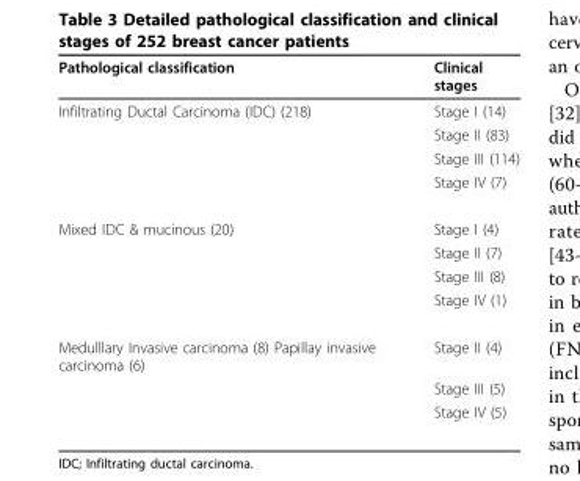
<table><thead><tr><td>Pathological classification</td><td>Clinical stages</td></tr></thead><tbody><tr><td rowspan="4">Infiltrating Ductal Carcinoma (IDC) (218)</td><td>Stage I (14)</td></tr><tr><td>Stage II (83)</td></tr><tr><td>Stage III (114)</td></tr><tr><td>Stage IV (7)</td></tr><tr><td rowspan="4">Mixed IDC &amp; mucinous (20)</td><td>Stage I (4)</td></tr><tr><td>Stage II (7)</td></tr><tr><td>Stage III (8)</td></tr><tr><td>Stage IV (1)</td></tr><tr><td rowspan="3">Medulllary Invasive carcinoma (8) Papillay invasive carcinoma (6)</td><td>Stage II (4)</td></tr><tr><td>Stage III (5)</td></tr><tr><td>Stage IV (5)</td></tr></tbody></table>